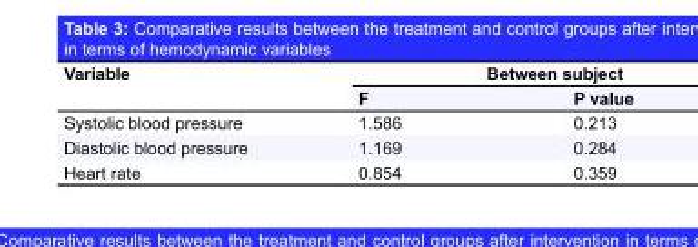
<table><thead><tr><td rowspan="2">Variable</td><td colspan="2">Between subject</td></tr><tr><td>F</td><td>P value</td></tr></thead><tbody><tr><td>Systolic blood pressure</td><td>1.586</td><td>0.213</td></tr><tr><td>Diastolic blood pressure</td><td>1.169</td><td>0.284</td></tr><tr><td>Heart rate</td><td>0.854</td><td>0.359</td></tr></tbody></table>